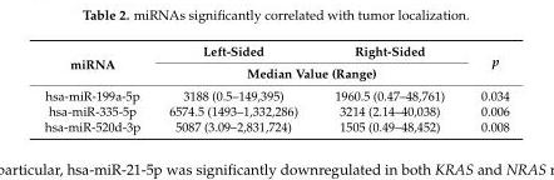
<table><thead><tr><td rowspan="2">miRNA</td><td>Left-Sided</td><td>Right-Sided</td><td rowspan="2">p</td></tr><tr><td colspan="2">Median Value (Range)</td></tr></thead><tbody><tr><td>hsa-miR-199a-5p</td><td>3188 (0.5–149,395)</td><td>1960.5 (0.47–48,761)</td><td>0.034</td></tr><tr><td>hsa-miR-335-5p</td><td>6574.5 (1493–1,332,286)</td><td>3214 (2.14–40,038)</td><td>0.006</td></tr><tr><td>hsa-miR-520d-3p</td><td>5087 (3.09–2,831,724)</td><td>1505 (0.49–48,452)</td><td>0.008</td></tr></tbody></table>